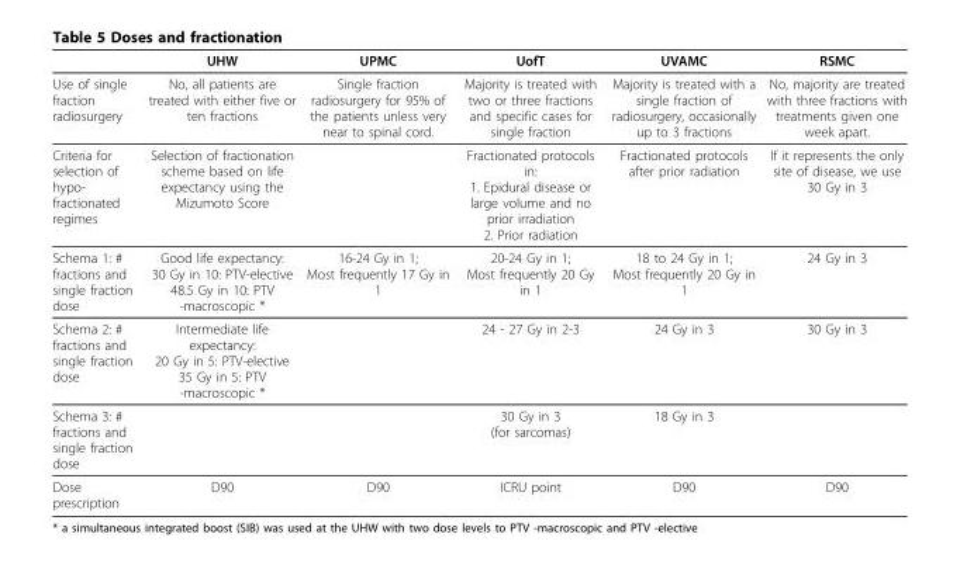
<table><thead><tr><td></td><td>UHW</td><td>UPMC</td><td>UofT</td><td>UVAMC</td><td>RSMC</td></tr></thead><tbody><tr><td>Use of single fraction radiosurgery</td><td>No, all patients are treated with either five or ten fractions</td><td>Single fraction radiosurgery for 95% of the patients unless very near to spinal cord.</td><td>Majority is treated with two or three fractions and specific cases for single fraction</td><td>Majority is treated with a single fraction of radiosurgery, occasionally up to 3 fractions</td><td>No, majority are treated with three fractions with treatments given one week apart.</td></tr><tr><td>Criteria for selection of hypo- fractionated regimes</td><td>Selection of fractionation scheme based on life expectancy using the Mizumoto Score</td><td></td><td>Fractionated protocols in: 1. Epidural disease or large volume and no prior irradiation 2. Prior radiation</td><td>Fractionated protocols after prior radiation</td><td>If it represents the only site of disease, we use 30 Gy in 3</td></tr><tr><td>Schema 1: # fractions and single fraction dose</td><td>Good life expectancy: 30 Gy in 10: PTV-elective 48.5 Gy in 10: PTV -macroscopic *</td><td>16-24 Gy in 1; Most frequently 17 Gy in 1</td><td>20-24 Gy in 1; Most frequently 20 Gy in 1</td><td>18 to 24 Gy in 1; Most frequently 20 Gy in 1</td><td>24 Gy in 3</td></tr><tr><td>Schema 2: # fractions and single fraction dose</td><td>Intermediate life expectancy: 20 Gy in 5: PTV-elective 35 Gy in 5: PTV -macroscopic *</td><td></td><td>24 - 27 Gy in 2-3</td><td>24 Gy in 3</td><td>30 Gy in 3</td></tr><tr><td>Schema 3: # fractions and single fraction dose</td><td></td><td></td><td>30 Gy in 3 (for sarcomas)</td><td>18 Gy in 3</td><td></td></tr><tr><td>Dose prescription</td><td>D90</td><td>D90</td><td>ICRU point</td><td>D90</td><td>D90</td></tr></tbody></table>